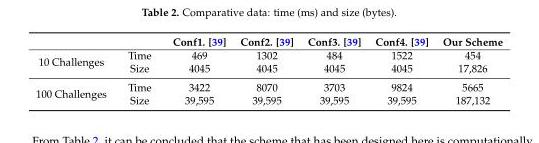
<table><thead><tr><td></td><td></td><td>Conf1. [39]</td><td>Conf2. [39]</td><td>Conf3. [39]</td><td>Conf4. [39]</td><td>Our Scheme</td></tr></thead><tbody><tr><td>10 Challenges</td><td>Time Size</td><td>469 4045</td><td>1302 4045</td><td>484 4045</td><td>1522 4045</td><td>454 17,826</td></tr><tr><td>100 Challenges</td><td>Time Size</td><td>3422 39,595</td><td>8070 39,595</td><td>3703 39,595</td><td>9824 39,595</td><td>5665 187,132</td></tr></tbody></table>